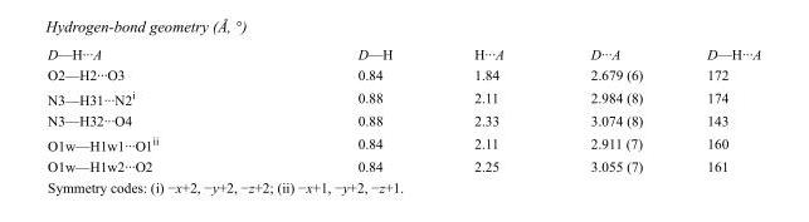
<table><tbody><tr><td>D—H···A</td><td>D—H</td><td>H···A</td><td>D···A</td><td>D—H···A</td></tr><tr><td>O2—H2···O3</td><td>0.84</td><td>1.84</td><td>2.679 (6)</td><td>172</td></tr><tr><td>N3—H31···N2<sup>i</sup></td><td>0.88</td><td>2.11</td><td>2.984 (8)</td><td>174</td></tr><tr><td>N3—H32···O4</td><td>0.88</td><td>2.33</td><td>3.074 (8)</td><td>143</td></tr><tr><td>O1w—H1w1···O1<sup>ii</sup></td><td>0.84</td><td>2.11</td><td>2.911 (7)</td><td>160</td></tr><tr><td>O1w—H1w2···O2</td><td>0.84</td><td>2.25</td><td>3.055 (7)</td><td>161</td></tr></tbody></table>